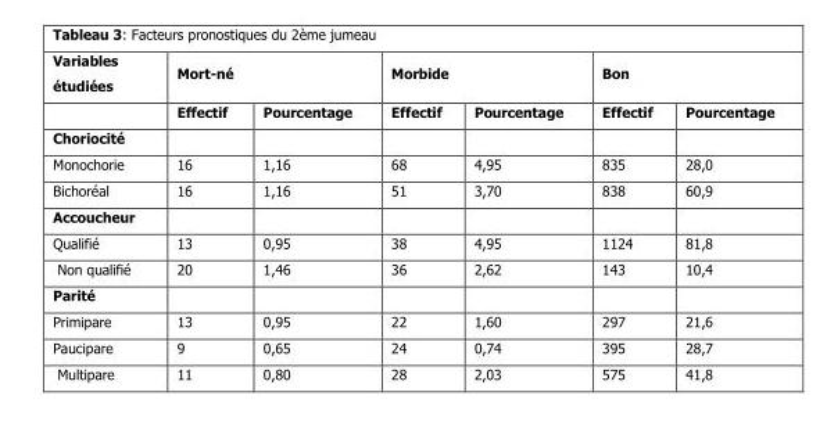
<table><thead><tr><td rowspan="2">Variables étudiées</td><td colspan="2">Mort-né</td><td colspan="2">Morbide</td><td colspan="2">Bon</td></tr><tr><td>Effectif</td><td>Pourcentage</td><td>Effectif</td><td>Pourcentage</td><td>Effectif</td><td>Pourcentage</td></tr></thead><tbody><tr><td colspan="7">Choriocité</td></tr><tr><td>Monochorie</td><td>16</td><td>1,16</td><td>68</td><td>4,95</td><td>835</td><td>28,0</td></tr><tr><td>Bichoréal</td><td>16</td><td>1,16</td><td>51</td><td>3,70</td><td>838</td><td>60,9</td></tr><tr><td colspan="7">Accoucheur</td></tr><tr><td>Qualifié</td><td>13</td><td>0,95</td><td>38</td><td>4,95</td><td>1124</td><td>81,8</td></tr><tr><td>Non qualifié</td><td>20</td><td>1,46</td><td>36</td><td>2,62</td><td>143</td><td>10,4</td></tr><tr><td colspan="7">Parité</td></tr><tr><td>Primipare</td><td>13</td><td>0,95</td><td>22</td><td>1,60</td><td>297</td><td>21,6</td></tr><tr><td>Paucipare</td><td>9</td><td>0,65</td><td>24</td><td>0,74</td><td>395</td><td>28,7</td></tr><tr><td>Multipare</td><td>11</td><td>0,80</td><td>28</td><td>2,03</td><td>575</td><td>41,8</td></tr></tbody></table>